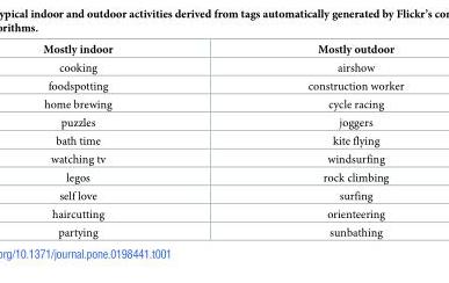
<table><thead><tr><td>Mostly indoor</td><td>Mostly outdoor</td></tr></thead><tbody><tr><td>cooking</td><td>airshow</td></tr><tr><td>foodspotting</td><td>construction worker</td></tr><tr><td>home brewing</td><td>cycle racing</td></tr><tr><td>puzzles</td><td>joggers</td></tr><tr><td>bath time</td><td>kite flying</td></tr><tr><td>watching tv</td><td>windsurfing</td></tr><tr><td>legos</td><td>rock climbing</td></tr><tr><td>self love</td><td>surfing</td></tr><tr><td>haircutting</td><td>orienteering</td></tr><tr><td>partying</td><td>sunbathing</td></tr></tbody></table>